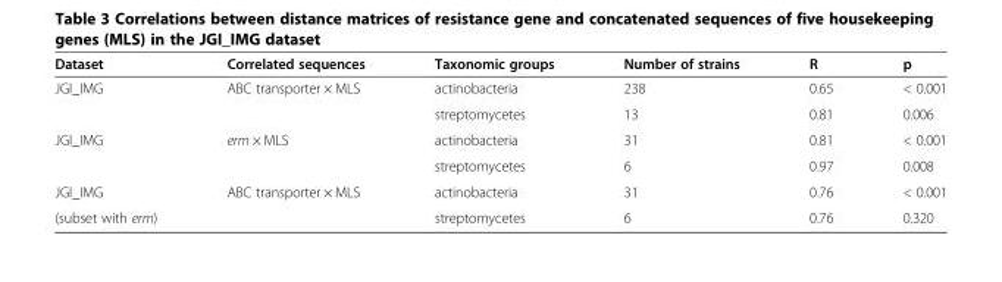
<table><thead><tr><td>Dataset</td><td>Correlated sequences</td><td>Taxonomic groups</td><td>Number of strains</td><td>R</td><td>p</td></tr></thead><tbody><tr><td rowspan="2">JGI_IMG</td><td>ABC transporter × MLS</td><td>actinobacteria</td><td>238</td><td>0.65</td><td>&lt; 0.001</td></tr><tr><td></td><td>streptomycetes</td><td>13</td><td>0.81</td><td>0.006</td></tr><tr><td rowspan="2">JGI_IMG</td><td>erm × MLS</td><td>actinobacteria</td><td>31</td><td>0.81</td><td>&lt; 0.001</td></tr><tr><td></td><td>streptomycetes</td><td>6</td><td>0.97</td><td>0.008</td></tr><tr><td>JGI_IMG</td><td>ABC transporter × MLS</td><td>actinobacteria</td><td>31</td><td>0.76</td><td>&lt; 0.001</td></tr><tr><td>(subset with erm)</td><td></td><td>streptomycetes</td><td>6</td><td>0.76</td><td>0.320</td></tr></tbody></table>